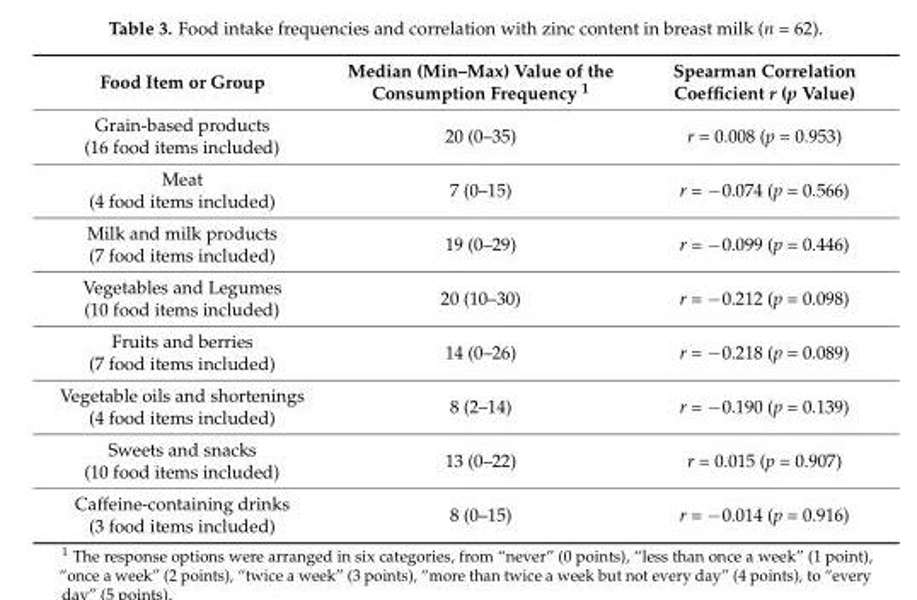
<table><thead><tr><td>Food Item or Group</td><td>Median (Min–Max) Value of the Consumption Frequency <sup>1</sup></td><td>Spearman Correlation Coefficient r (p Value)</td></tr></thead><tbody><tr><td>Grain-based products (16 food items included)</td><td>20 (0–35)</td><td>r = 0.008 (p = 0.953)</td></tr><tr><td>Meat (4 food items included)</td><td>7 (0–15)</td><td>r = −0.074 (p = 0.566)</td></tr><tr><td>Milk and milk products (7 food items included)</td><td>19 (0–29)</td><td>r = −0.099 (p = 0.446)</td></tr><tr><td>Vegetables and Legumes (10 food items included)</td><td>20 (10–30)</td><td>r = −0.212 (p = 0.098)</td></tr><tr><td>Fruits and berries (7 food items included)</td><td>14 (0–26)</td><td>r = −0.218 (p = 0.089)</td></tr><tr><td>Vegetable oils and shortenings (4 food items included)</td><td>8 (2–14)</td><td>r = −0.190 (p = 0.139)</td></tr><tr><td>Sweets and snacks (10 food items included)</td><td>13 (0–22)</td><td>r = 0.015 (p = 0.907)</td></tr><tr><td>Caffeine-containing drinks (3 food items included)</td><td>8 (0–15)</td><td>r = −0.014 (p = 0.916)</td></tr></tbody></table>